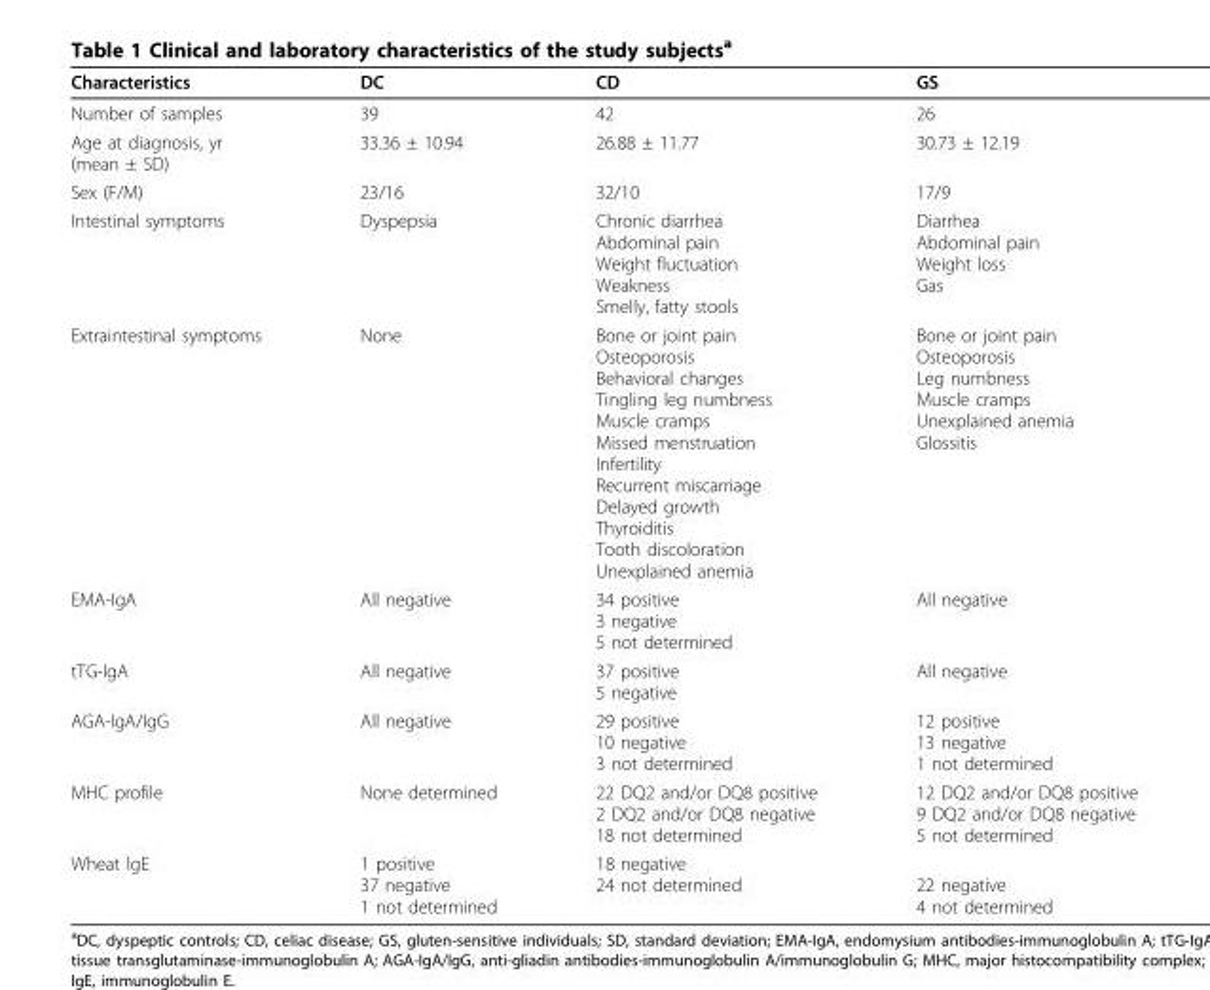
<table><thead><tr><td>Characteristics</td><td>DC</td><td>CD</td><td>GS</td></tr></thead><tbody><tr><td>Number of samples</td><td>39</td><td>42</td><td>26</td></tr><tr><td>Age at diagnosis, yr (mean ± SD)</td><td>33.36 ± 10.94</td><td>26.88 ± 11.77</td><td>30.73 ± 12.19</td></tr><tr><td>Sex (F/M)</td><td>23/16</td><td>32/10</td><td>17/9</td></tr><tr><td>Intestinal symptoms</td><td>Dyspepsia</td><td>Chronic diarrhea Abdominal pain Weight fluctuation Weakness Smelly, fatty stools</td><td>Diarrhea Abdominal pain Weight loss Gas</td></tr><tr><td>Extraintestinal symptoms</td><td>None</td><td>Bone or joint pain Osteoporosis Behavioral changes Tingling leg numbness Muscle cramps Missed menstruation Infertility Recurrent miscarriage Delayed growth Thyroiditis Tooth discoloration Unexplained anemia</td><td>Bone or joint pain Osteoporosis Leg numbness Muscle cramps Unexplained anemia Glossitis</td></tr><tr><td>EMA-IgA</td><td>All negative</td><td>34 positive 3 negative 5 not determined</td><td>All negative</td></tr><tr><td>tTG-IgA</td><td>All negative</td><td>37 positive 5 negative</td><td>All negative</td></tr><tr><td>AGA-IgA/IgG</td><td>All negative</td><td>29 positive 10 negative 3 not determined</td><td>12 positive 13 negative 1 not determined</td></tr><tr><td>MHC profile</td><td>None determined</td><td>22 DQ2 and/or DQ8 positive 2 DQ2 and/or DQ8 negative 18 not determined</td><td>12 DQ2 and/or DQ8 positive 9 DQ2 and/or DQ8 negative 5 not determined</td></tr><tr><td>Wheat IgE</td><td>1 positive 37 negative 1 not determined</td><td>18 negative 24 not determined</td><td>22 negative 4 not determined</td></tr></tbody></table>